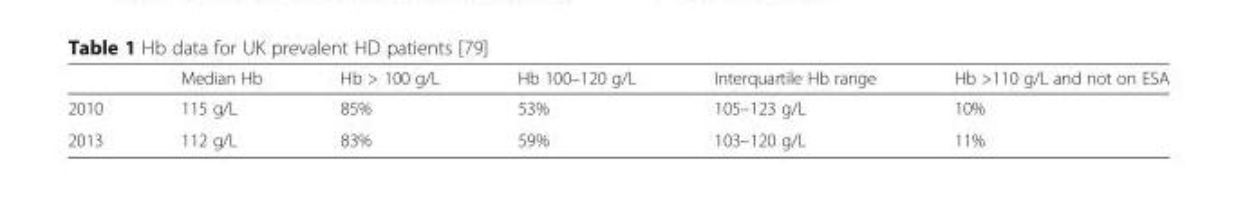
<table><thead><tr><td></td><td>Median Hb</td><td>Hb &gt; 100 g/L</td><td>Hb 100–120 g/L</td><td>Interquartile Hb range</td><td>Hb &gt;110 g/L and not on ESA</td></tr></thead><tbody><tr><td>2010</td><td>115 g/L</td><td>85%</td><td>53%</td><td>105–123 g/L</td><td>10%</td></tr><tr><td>2013</td><td>112 g/L</td><td>83%</td><td>59%</td><td>103–120 g/L</td><td>11%</td></tr></tbody></table>